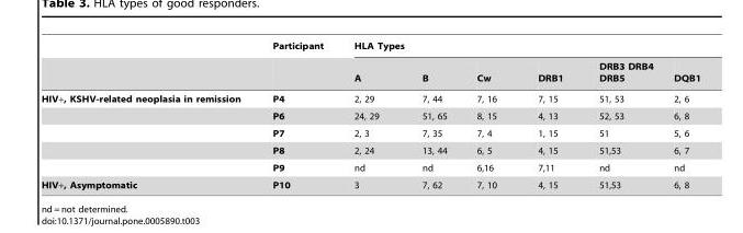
<table><thead><tr><td rowspan="2"></td><td rowspan="2">Participant</td><td colspan="6">HLA Types</td></tr><tr><td>A</td><td>B</td><td>Cw</td><td>DRB1</td><td>DRB3 DRB4 DRB5</td><td>DQB1</td></tr></thead><tbody><tr><td rowspan="5">HIV+, KSHV-related neoplasia in remission</td><td>P4</td><td>2, 29</td><td>7, 44</td><td>7, 16</td><td>7, 15</td><td>51, 53</td><td>2, 6</td></tr><tr><td>P6</td><td>24, 29</td><td>51, 65</td><td>8, 15</td><td>4, 13</td><td>52, 53</td><td>6, 8</td></tr><tr><td>P7</td><td>2, 3</td><td>7, 35</td><td>7, 4</td><td>1, 15</td><td>51</td><td>5, 6</td></tr><tr><td>P8</td><td>2, 24</td><td>13, 44</td><td>6, 5</td><td>4, 15</td><td>51,53</td><td>6, 7</td></tr><tr><td>P9</td><td>nd</td><td>nd</td><td>6,16</td><td>7,11</td><td>nd</td><td>nd</td></tr><tr><td>HIV+, Asymptomatic</td><td>P10</td><td>3</td><td>7, 62</td><td>7, 10</td><td>4, 15</td><td>51,53</td><td>6, 8</td></tr></tbody></table>